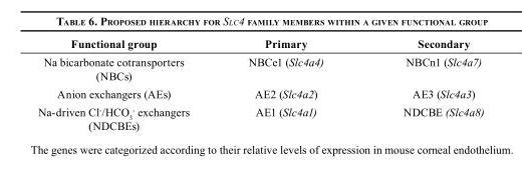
<table><thead><tr><td>Functional group</td><td>Primary</td><td>Secondary</td></tr></thead><tbody><tr><td>Na bicarbonate cotransporters (NBCs)</td><td>NBCe1 (Slc4a4)</td><td>NBCn1 (Slc4a7)</td></tr><tr><td>Anion exchangers (AEs)</td><td>AE2 (Slc4a2)</td><td>AE3 (Slc4a3)</td></tr><tr><td>Na-driven Cl<sup>-</sup>/HCO<sub>3</sub> <sup>-</sup> exchangers (NDCBEs)</td><td>AE1 (Slc4a1)</td><td>NDCBE (Slc4a8)</td></tr></tbody></table>